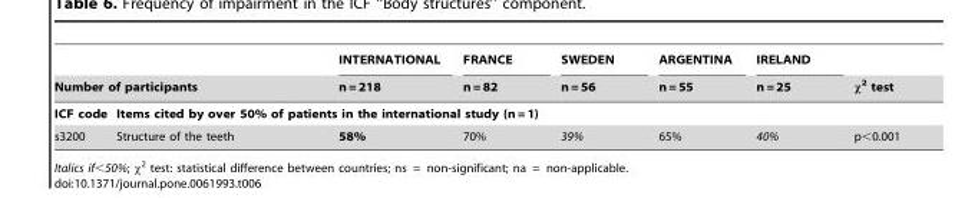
<table><thead><tr><td></td><td></td><td rowspan="2">INTERNATIONAL n = 218</td><td rowspan="2">FRANCE n = 82</td><td rowspan="2">SWEDEN n = 56</td><td rowspan="2">ARGENTINA n = 55</td><td rowspan="2">IRELAND n = 25</td><td rowspan="2">x2 test</td></tr><tr><td colspan="2">Number of participants</td></tr></thead><tbody><tr><td>ICF code</td><td colspan="7">Items cited by over 50% of patients in the international study (n = 1)</td></tr><tr><td>s3200</td><td>Structure of the teeth</td><td>58%</td><td>70%</td><td>39%</td><td>65%</td><td>40%</td><td>p&lt;0.001</td></tr></tbody></table>